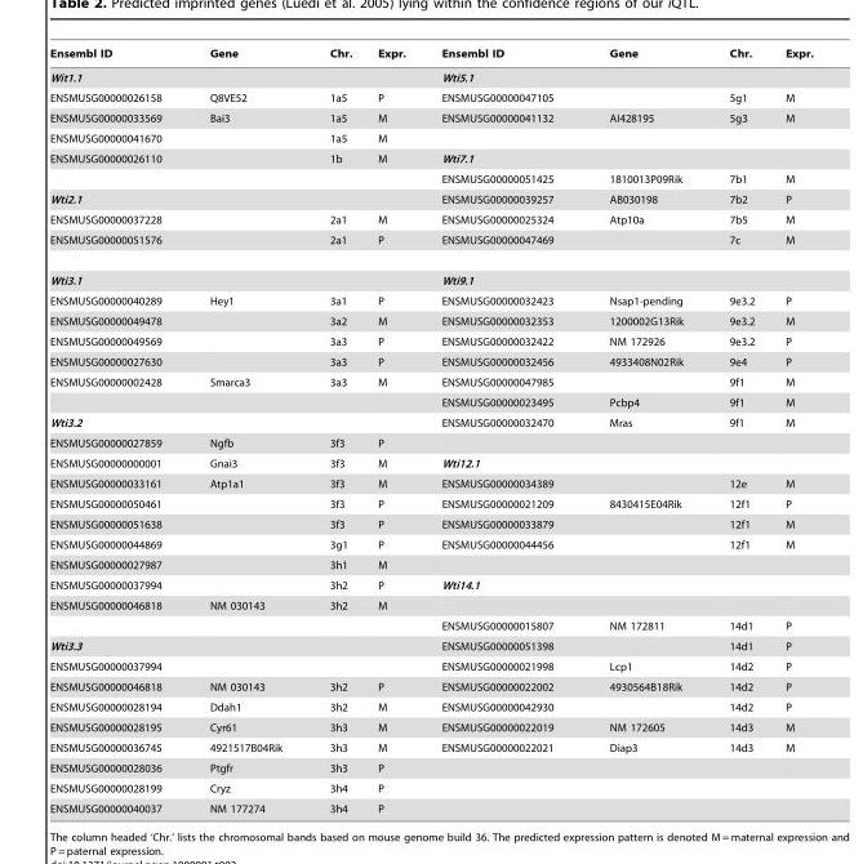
<table><thead><tr><td>Ensembl ID</td><td>Gene</td><td>Chr.</td><td>Expr.</td><td>Ensembl ID</td><td>Gene</td><td>Chr.</td><td>Expr.</td></tr></thead><tbody><tr><td>Wit1.1</td><td></td><td></td><td></td><td>Wti5.1</td><td></td><td></td><td></td></tr><tr><td>ENSMUSG00000026158</td><td>Q8VE52</td><td>1a5</td><td>P</td><td>ENSMUSG00000047105</td><td></td><td>5g1</td><td>M</td></tr><tr><td>ENSMUSG00000033569</td><td>Bai3</td><td>1a5</td><td>M</td><td>ENSMUSG00000041132</td><td>AI428195</td><td>5g3</td><td>M</td></tr><tr><td>ENSMUSG00000041670</td><td></td><td>1a5</td><td>M</td><td></td><td></td><td></td><td></td></tr><tr><td rowspan="2">ENSMUSG00000026110</td><td></td><td>1b</td><td>M</td><td>Wti7.1</td><td></td><td></td><td></td></tr><tr><td></td><td></td><td></td><td>ENSMUSG00000051425</td><td>1810013P09Rik</td><td>7b1</td><td>M</td></tr><tr><td>Wti2.1</td><td></td><td></td><td></td><td>ENSMUSG00000039257</td><td>AB030198</td><td>7b2</td><td>P</td></tr><tr><td>ENSMUSG00000037228</td><td></td><td>2a1</td><td>M</td><td>ENSMUSG00000025324</td><td>Atp10a</td><td>7b5</td><td>M</td></tr><tr><td>ENSMUSG00000051576</td><td></td><td>2a1</td><td>P</td><td>ENSMUSG00000047469</td><td></td><td>7c</td><td>M</td></tr><tr><td>Wti3.1</td><td></td><td></td><td></td><td>Wti9.1</td><td></td><td></td><td></td></tr><tr><td>ENSMUSG00000040289</td><td>Hey1</td><td>3a1</td><td>P</td><td>ENSMUSG00000032423</td><td>Nsap1-pending</td><td>9e3.2</td><td>P</td></tr><tr><td>ENSMUSG00000049478</td><td></td><td>3a2</td><td>M</td><td>ENSMUSG00000032353</td><td>1200002G13Rik</td><td>9e3.2</td><td>M</td></tr><tr><td>ENSMUSG00000049569</td><td></td><td>3a3</td><td>P</td><td>ENSMUSG00000032422</td><td>NM 172926</td><td>9e3.2</td><td>P</td></tr><tr><td>ENSMUSG00000027630</td><td></td><td>3a3</td><td>P</td><td>ENSMUSG00000032456</td><td>4933408N02Rik</td><td>9e4</td><td>P</td></tr><tr><td rowspan="2">ENSMUSG00000002428</td><td>Smarca3</td><td>3a3</td><td>M</td><td>ENSMUSG00000047985</td><td></td><td>9f1</td><td>M</td></tr><tr><td></td><td></td><td></td><td>ENSMUSG00000023495</td><td>Pcbp4</td><td>9f1</td><td>M</td></tr><tr><td>Wti3.2</td><td></td><td></td><td></td><td>ENSMUSG00000032470</td><td>Mras</td><td>9f1</td><td>M</td></tr><tr><td>ENSMUSG00000027859</td><td>Ngfb</td><td>3f3</td><td>P</td><td></td><td></td><td></td><td></td></tr><tr><td>ENSMUSG00000000001</td><td>Gnai3</td><td>3f3</td><td>M</td><td>Wti12.1</td><td></td><td></td><td></td></tr><tr><td>ENSMUSG00000033161</td><td>Atp1a1</td><td>3f3</td><td>M</td><td>ENSMUSG00000034389</td><td></td><td>12e</td><td>M</td></tr><tr><td>ENSMUSG00000050461</td><td></td><td>3f3</td><td>P</td><td>ENSMUSG00000021209</td><td>8430415E04Rik</td><td>12f1</td><td>P</td></tr><tr><td>ENSMUSG00000051638</td><td></td><td>3f3</td><td>P</td><td>ENSMUSG00000033879</td><td></td><td>12f1</td><td>M</td></tr><tr><td>ENSMUSG00000044869</td><td></td><td>3g1</td><td>P</td><td>ENSMUSG00000044456</td><td></td><td>12f1</td><td>M</td></tr><tr><td>ENSMUSG00000027987</td><td></td><td>3h1</td><td>M</td><td></td><td></td><td></td><td></td></tr><tr><td>ENSMUSG00000037994</td><td></td><td>3h2</td><td>P</td><td>Wti14.1</td><td></td><td></td><td></td></tr><tr><td rowspan="2">ENSMUSG00000046818</td><td>NM 030143</td><td>3h2</td><td>M</td><td></td><td></td><td></td><td></td></tr><tr><td></td><td></td><td></td><td>ENSMUSG00000015807</td><td>NM 172811</td><td>14d1</td><td>P</td></tr><tr><td>Wti3.3</td><td></td><td></td><td></td><td>ENSMUSG00000051398</td><td></td><td>14d1</td><td>P</td></tr><tr><td>ENSMUSG00000037994</td><td></td><td></td><td></td><td>ENSMUSG00000021998</td><td>Lcp1</td><td>14d2</td><td>P</td></tr><tr><td>ENSMUSG00000046818</td><td>NM 030143</td><td>3h2</td><td>P</td><td>ENSMUSG00000022002</td><td>4930564B18Rik</td><td>14d2</td><td>P</td></tr><tr><td>ENSMUSG00000028194</td><td>Ddah1</td><td>3h2</td><td>M</td><td>ENSMUSG00000042930</td><td></td><td>14d2</td><td>P</td></tr><tr><td>ENSMUSG00000028195</td><td>Cyr61</td><td>3h3</td><td>M</td><td>ENSMUSG00000022019</td><td>NM 172605</td><td>14d3</td><td>M</td></tr><tr><td>ENSMUSG00000036745</td><td>4921517B04Rik</td><td>3h3</td><td>M</td><td>ENSMUSG00000022021</td><td>Diap3</td><td>14d3</td><td>M</td></tr><tr><td>ENSMUSG00000028036</td><td>Ptgfr</td><td>3h3</td><td>P</td><td></td><td></td><td></td><td></td></tr><tr><td>ENSMUSG00000028199</td><td>Cryz</td><td>3h4</td><td>P</td><td></td><td></td><td></td><td></td></tr><tr><td>ENSMUSG00000040037</td><td>NM 177274</td><td>3h4</td><td>P</td><td></td><td></td><td></td><td></td></tr></tbody></table>